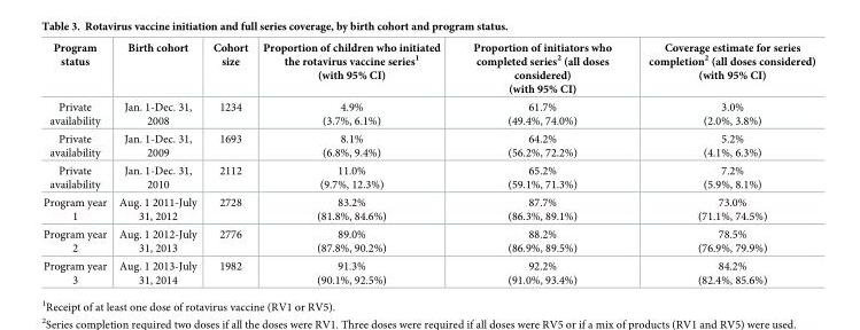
<table><thead><tr><td>Program status</td><td>Birth cohort</td><td>Cohort size</td><td>Proportion of children who initiated the rotavirus vaccine series<sup>1</sup> (with 95% CI)</td><td>Proportion of initiators who completed series<sup>2</sup> (all doses considered) (with 95% CI)</td><td>Coverage estimate for series completion<sup>2</sup> (all doses considered) (with 95% CI)</td></tr></thead><tbody><tr><td>Private availability</td><td>Jan. 1-Dec. 31, 2008</td><td>1234</td><td>4.9% (3.7%, 6.1%)</td><td>61.7% (49.4%, 74.0%)</td><td>3.0% (2.0%, 3.8%)</td></tr><tr><td>Private availability</td><td>Jan. 1-Dec. 31, 2009</td><td>1693</td><td>8.1% (6.8%, 9.4%)</td><td>64.2% (56.2%, 72.2%)</td><td>5.2% (4.1%, 6.3%)</td></tr><tr><td>Private availability</td><td>Jan. 1-Dec. 31, 2010</td><td>2112</td><td>11.0% (9.7%, 12.3%)</td><td>65.2% (59.1%, 71.3%)</td><td>7.2% (5.9%, 8.1%)</td></tr><tr><td>Program year 1</td><td>Aug. 1 2011-July 31, 2012</td><td>2728</td><td>83.2% (81.8%, 84.6%)</td><td>87.7% (86.3%, 89.1%)</td><td>73.0% (71.1%, 74.5%)</td></tr><tr><td>Program year 2</td><td>Aug. 1 2012-July 31, 2013</td><td>2776</td><td>89.0% (87.8%, 90.2%)</td><td>88.2% (86.9%, 89.5%)</td><td>78.5% (76.9%, 79.9%)</td></tr><tr><td>Program year 3</td><td>Aug. 1 2013-July 31, 2014</td><td>1982</td><td>91.3% (90.1%, 92.5%)</td><td>92.2% (91.0%, 93.4%)</td><td>84.2% (82.4%, 85.6%)</td></tr></tbody></table>